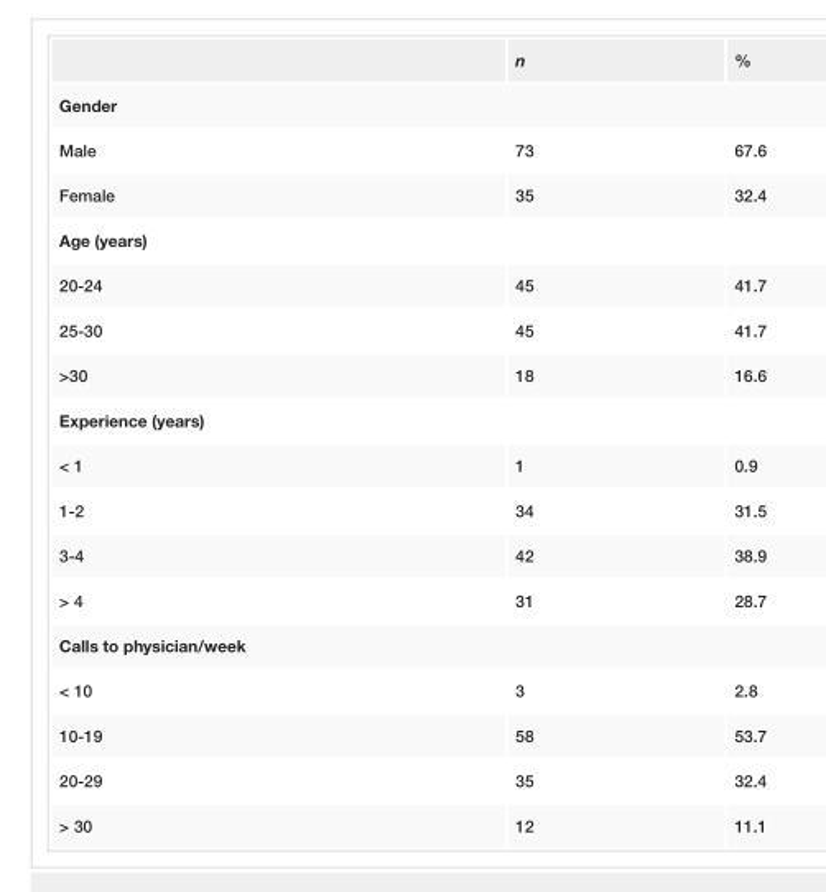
<table><thead><tr><td></td><td>n</td><td>%</td></tr></thead><tbody><tr><td colspan="3">Gender</td></tr><tr><td>Male</td><td>73</td><td>67.6</td></tr><tr><td>Female</td><td>35</td><td>32.4</td></tr><tr><td colspan="3">Age (years)</td></tr><tr><td>20-24</td><td>45</td><td>41.7</td></tr><tr><td>25-30</td><td>45</td><td>41.7</td></tr><tr><td>&gt;30</td><td>18</td><td>16.6</td></tr><tr><td colspan="3">Experience (years)</td></tr><tr><td>&lt; 1</td><td>1</td><td>0.9</td></tr><tr><td>1-2</td><td>34</td><td>31.5</td></tr><tr><td>3-4</td><td>42</td><td>38.9</td></tr><tr><td>&gt; 4</td><td>31</td><td>28.7</td></tr><tr><td colspan="3">Calls to physician/week</td></tr><tr><td>&lt; 10</td><td>3</td><td>2.8</td></tr><tr><td>10-19</td><td>58</td><td>53.7</td></tr><tr><td>20-29</td><td>35</td><td>32.4</td></tr><tr><td>&gt; 30</td><td>12</td><td>11.1</td></tr></tbody></table>